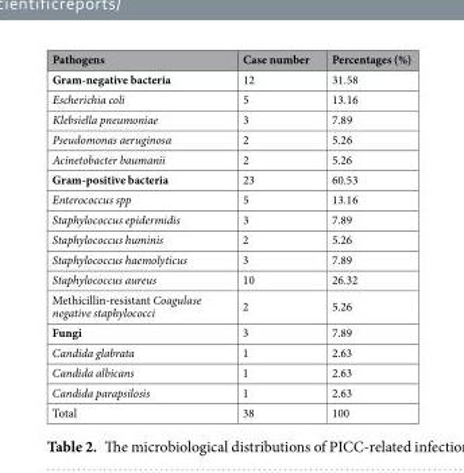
<table><thead><tr><td>Pathogens</td><td>Case number</td><td>Percentages (%)</td></tr></thead><tbody><tr><td>Gram-negative bacteria</td><td>12</td><td>31.58</td></tr><tr><td>Escherichia coli</td><td>5</td><td>13.16</td></tr><tr><td>Klebsiella pneumoniae</td><td>3</td><td>7.89</td></tr><tr><td>Pseudomonas aeruginosa</td><td>2</td><td>5.26</td></tr><tr><td>Acinetobacter baumanii</td><td>2</td><td>5.26</td></tr><tr><td>Gram-positive bacteria</td><td>23</td><td>60.53</td></tr><tr><td>Enterococcus spp</td><td>5</td><td>13.16</td></tr><tr><td>Staphylococcus epidermidis</td><td>3</td><td>7.89</td></tr><tr><td>Staphylococcus huminis</td><td>2</td><td>5.26</td></tr><tr><td>Staphylococcus haemolyticus</td><td>3</td><td>7.89</td></tr><tr><td>Staphylococcus aureus</td><td>10</td><td>26.32</td></tr><tr><td>Methicillin-resistant Coagulase negative staphylococci</td><td>2</td><td>5.26</td></tr><tr><td>Fungi</td><td>3</td><td>7.89</td></tr><tr><td>Candida glabrata</td><td>1</td><td>2.63</td></tr><tr><td>Candida albicans</td><td>1</td><td>2.63</td></tr><tr><td>Candida parapsilosis</td><td>1</td><td>2.63</td></tr><tr><td>Total</td><td>38</td><td>100</td></tr></tbody></table>